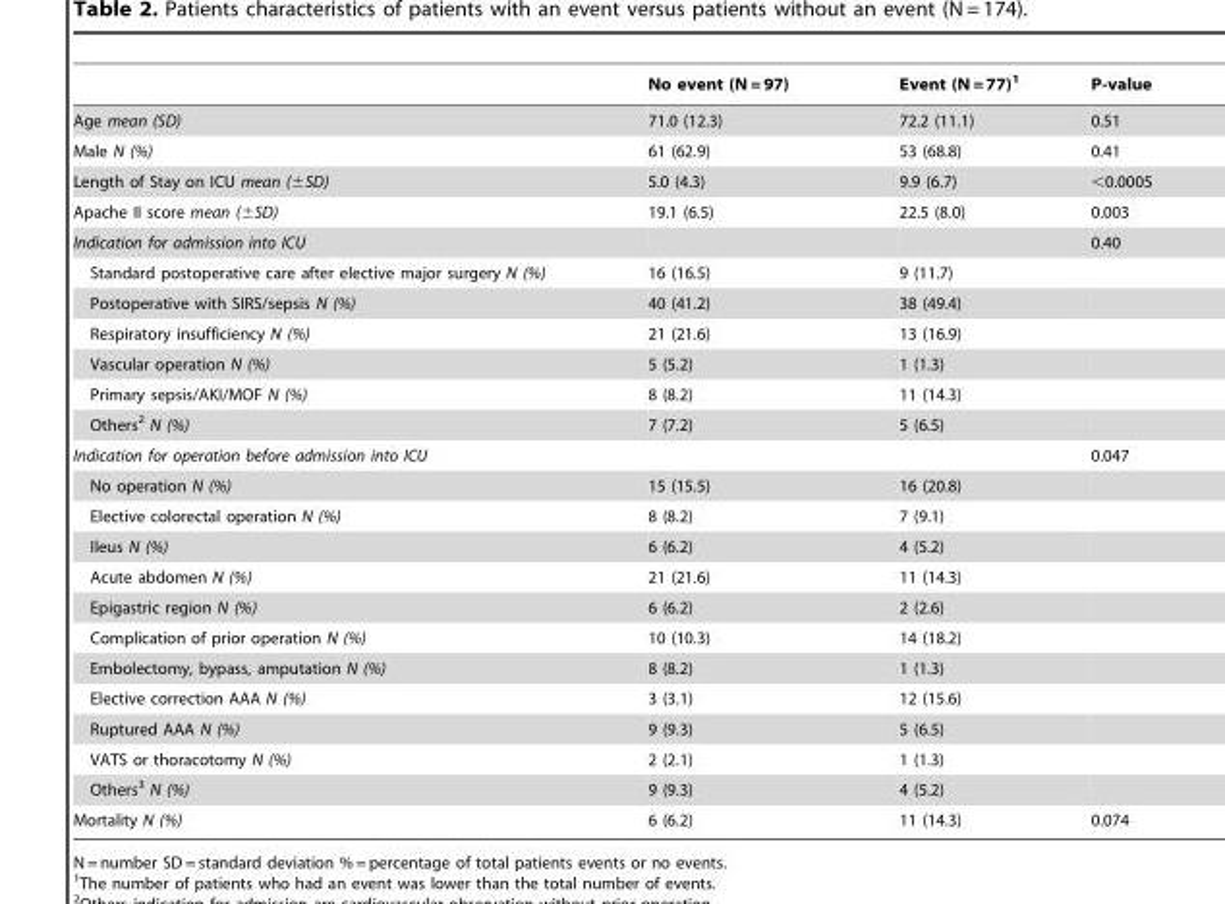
<table><thead><tr><td></td><td>No event (N = 97)</td><td>Event (N = 77)<sup>1</sup></td><td>P-value</td></tr></thead><tbody><tr><td>Age mean (SD)</td><td>71.0 (12.3)</td><td>72.2 (11.1)</td><td>0.51</td></tr><tr><td>Male N (%)</td><td>61 (62.9)</td><td>53 (68.8)</td><td>0.41</td></tr><tr><td>Length of Stay on ICU mean (±SD)</td><td>5.0 (4.3)</td><td>9.9 (6.7)</td><td>&lt;0.0005</td></tr><tr><td>Apache II score mean (±SD)</td><td>19.1 (6.5)</td><td>22.5 (8.0)</td><td>0.003</td></tr><tr><td>Indication for admission into ICU</td><td></td><td></td><td>0.40</td></tr><tr><td>Standard postoperative care after elective major surgery N (%)</td><td>16 (16.5)</td><td>9 (11.7)</td><td></td></tr><tr><td>Postoperative with SIRS/sepsis N (%)</td><td>40 (41.2)</td><td>38 (49.4)</td><td></td></tr><tr><td>Respiratory insufficiency N (%)</td><td>21 (21.6)</td><td>13 (16.9)</td><td></td></tr><tr><td>Vascular operation N (%)</td><td>5 (5.2)</td><td>1 (1.3)</td><td></td></tr><tr><td>Primary sepsis/AKI/MOF N (%)</td><td>8 (8.2)</td><td>11 (14.3)</td><td></td></tr><tr><td>Others<sup>2</sup> N (%)</td><td>7 (7.2)</td><td>5 (6.5)</td><td></td></tr><tr><td>Indication for operation before admission into ICU</td><td></td><td></td><td>0.047</td></tr><tr><td>No operation N (%)</td><td>15 (15.5)</td><td>16 (20.8)</td><td></td></tr><tr><td>Elective colorectal operation N (%)</td><td>8 (8.2)</td><td>7 (9.1)</td><td></td></tr><tr><td>Ileus N (%)</td><td>6 (6.2)</td><td>4 (5.2)</td><td></td></tr><tr><td>Acute abdomen N (%)</td><td>21 (21.6)</td><td>11 (14.3)</td><td></td></tr><tr><td>Epigastric region N (%)</td><td>6 (6.2)</td><td>2 (2.6)</td><td></td></tr><tr><td>Complication of prior operation N (%)</td><td>10 (10.3)</td><td>14 (18.2)</td><td></td></tr><tr><td>Embolectomy, bypass, amputation N (%)</td><td>8 (8.2)</td><td>1 (1.3)</td><td></td></tr><tr><td>Elective correction AAA N (%)</td><td>3 (3.1)</td><td>12 (15.6)</td><td></td></tr><tr><td>Ruptured AAA N (%)</td><td>9 (9.3)</td><td>5 (6.5)</td><td></td></tr><tr><td>VATS or thoracotomy N (%)</td><td>2 (2.1)</td><td>1 (1.3)</td><td></td></tr><tr><td>Others<sup>3</sup> N (%)</td><td>9 (9.3)</td><td>4 (5.2)</td><td></td></tr><tr><td>Mortality N (%)</td><td>6 (6.2)</td><td>11 (14.3)</td><td>0.074</td></tr></tbody></table>